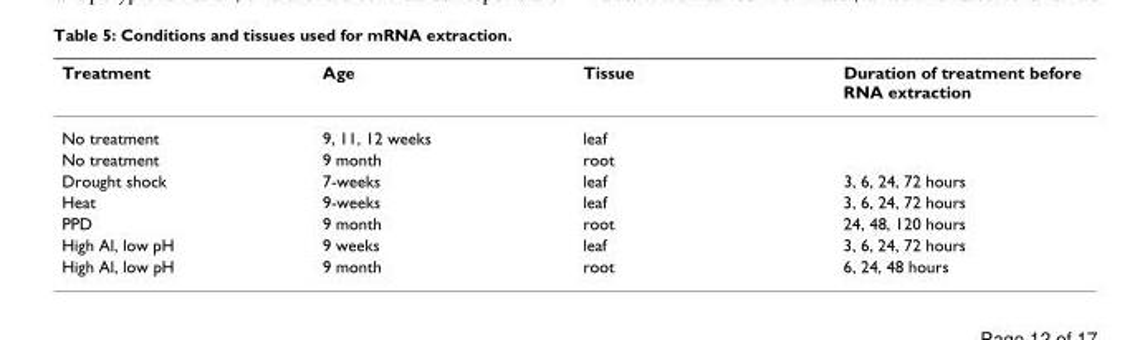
<table><thead><tr><td>Treatment</td><td>Age</td><td>Tissue</td><td>Duration of treatment before RNA extraction</td></tr></thead><tbody><tr><td>No treatment</td><td>9, 11, 12 weeks</td><td>leaf</td><td></td></tr><tr><td>No treatment</td><td>9 month</td><td>root</td><td></td></tr><tr><td>Drought shock</td><td>7-weeks</td><td>leaf</td><td>3, 6, 24, 72 hours</td></tr><tr><td>Heat</td><td>9-weeks</td><td>leaf</td><td>3, 6, 24, 72 hours</td></tr><tr><td>PPD</td><td>9 month</td><td>root</td><td>24, 48, 120 hours</td></tr><tr><td>High Al, low pH</td><td>9 weeks</td><td>leaf</td><td>3, 6, 24, 72 hours</td></tr><tr><td>High Al, low pH</td><td>9 month</td><td>root</td><td>6, 24, 48 hours</td></tr></tbody></table>